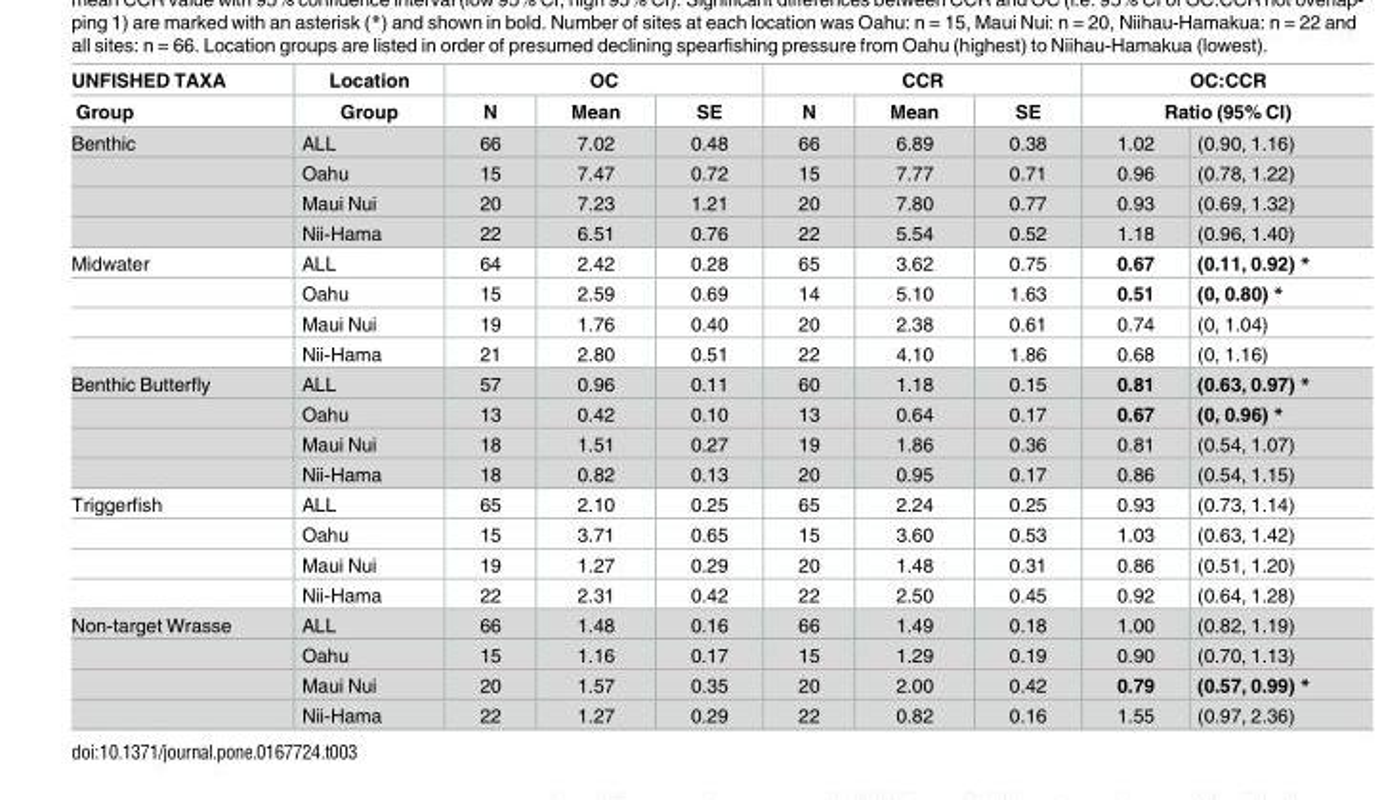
<table><thead><tr><td rowspan="3">UNFISHED TAXA Group Benthic</td><td rowspan="3">Location Group ALL</td><td colspan="3">OC</td><td colspan="3">CCR</td><td rowspan="2" colspan="2">OC:CCR Ratio (95% CI)</td></tr><tr><td rowspan="2">N 66</td><td rowspan="2">Mean 7.02</td><td rowspan="2">SE 0.48</td><td rowspan="2">N 66</td><td rowspan="2">Mean 6.89</td><td rowspan="2">SE 0.38</td></tr><tr><td>1.02</td><td>(0.90, 1.16)</td></tr></thead><tbody><tr><td></td><td>Oahu</td><td>15</td><td>7.47</td><td>0.72</td><td>15</td><td>7.77</td><td>0.71</td><td>0.96</td><td>(0.78, 1.22)</td></tr><tr><td></td><td>Maui Nui</td><td>20</td><td>7.23</td><td>1.21</td><td>20</td><td>7.80</td><td>0.77</td><td>0.93</td><td>(0.69, 1.32)</td></tr><tr><td></td><td>Nii-Hama</td><td>22</td><td>6.51</td><td>0.76</td><td>22</td><td>5.54</td><td>0.52</td><td>1.18</td><td>(0.96, 1.40)</td></tr><tr><td rowspan="4">Midwater</td><td>ALL</td><td>64</td><td>2.42</td><td>0.28</td><td>65</td><td>3.62</td><td>0.75</td><td>0.67</td><td>(0.11, 0.92) *</td></tr><tr><td>Oahu</td><td>15</td><td>2.59</td><td>0.69</td><td>14</td><td>5.10</td><td>1.63</td><td>0.51</td><td>(0, 0.80) *</td></tr><tr><td>Maui Nui</td><td>19</td><td>1.76</td><td>0.40</td><td>20</td><td>2.38</td><td>0.61</td><td>0.74</td><td>(0, 1.04)</td></tr><tr><td>Nii-Hama</td><td>21</td><td>2.80</td><td>0.51</td><td>22</td><td>4.10</td><td>1.86</td><td>0.68</td><td>(0, 1.16)</td></tr><tr><td rowspan="4">Benthic Butterfly</td><td>ALL</td><td>57</td><td>0.96</td><td>0.11</td><td>60</td><td>1.18</td><td>0.15</td><td>0.81</td><td>(0.63, 0.97) *</td></tr><tr><td>Oahu</td><td>13</td><td>0.42</td><td>0.10</td><td>13</td><td>0.64</td><td>0.17</td><td>0.67</td><td>(0, 0.96) *</td></tr><tr><td>Maui Nui</td><td>18</td><td>1.51</td><td>0.27</td><td>19</td><td>1.86</td><td>0.36</td><td>0.81</td><td>(0.54, 1.07)</td></tr><tr><td>Nii-Hama</td><td>18</td><td>0.82</td><td>0.13</td><td>20</td><td>0.95</td><td>0.17</td><td>0.86</td><td>(0.54, 1.15)</td></tr><tr><td rowspan="4">Triggerfish</td><td>ALL</td><td>65</td><td>2.10</td><td>0.25</td><td>65</td><td>2.24</td><td>0.25</td><td>0.93</td><td>(0.73, 1.14)</td></tr><tr><td>Oahu</td><td>15</td><td>3.71</td><td>0.65</td><td>15</td><td>3.60</td><td>0.53</td><td>1.03</td><td>(0.63, 1.42)</td></tr><tr><td>Maui Nui</td><td>19</td><td>1.27</td><td>0.29</td><td>20</td><td>1.48</td><td>0.31</td><td>0.86</td><td>(0.51, 1.20)</td></tr><tr><td>Nii-Hama</td><td>22</td><td>2.31</td><td>0.42</td><td>22</td><td>2.50</td><td>0.45</td><td>0.92</td><td>(0.64, 1.28)</td></tr><tr><td rowspan="4">Non-target Wrasse</td><td>ALL</td><td>66</td><td>1.48</td><td>0.16</td><td>66</td><td>1.49</td><td>0.18</td><td>1.00</td><td>(0.82, 1.19)</td></tr><tr><td>Oahu</td><td>15</td><td>1.16</td><td>0.17</td><td>15</td><td>1.29</td><td>0.19</td><td>0.90</td><td>(0.70, 1.13)</td></tr><tr><td>Maui Nui</td><td>20</td><td>1.57</td><td>0.35</td><td>20</td><td>2.00</td><td>0.42</td><td>0.79</td><td>(0.57, 0.99) *</td></tr><tr><td>Nii-Hama</td><td>22</td><td>1.27</td><td>0.29</td><td>22</td><td>0.82</td><td>0.16</td><td>1.55</td><td>(0.97, 2.36)</td></tr></tbody></table>